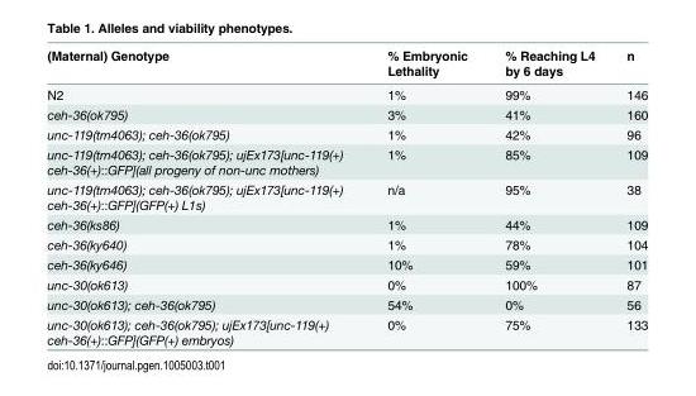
<table><thead><tr><td>(Maternal) Genotype</td><td>% Embryonic Lethality</td><td>% Reaching L4 by 6 days</td><td>n</td></tr></thead><tbody><tr><td>N2</td><td>1%</td><td>99%</td><td>146</td></tr><tr><td>ceh-36(ok795)</td><td>3%</td><td>41%</td><td>160</td></tr><tr><td>unc-119(tm4063); ceh-36(ok795)</td><td>1%</td><td>42%</td><td>96</td></tr><tr><td>unc-119(tm4063); ceh-36(ok795); ujEx173[unc-119(+) ceh-36(+)::GFP](all progeny of non-unc mothers)</td><td>1%</td><td>85%</td><td>109</td></tr><tr><td>unc-119(tm4063); ceh-36(ok795); ujEx173[unc-119(+) ceh-36(+)::GFP](GFP(+) L1s)</td><td>n/a</td><td>95%</td><td>38</td></tr><tr><td>ceh-36(ks86)</td><td>1%</td><td>44%</td><td>109</td></tr><tr><td>ceh-36(ky640)</td><td>1%</td><td>78%</td><td>104</td></tr><tr><td>ceh-36(ky646)</td><td>10%</td><td>59%</td><td>101</td></tr><tr><td>unc-30(ok613)</td><td>0%</td><td>100%</td><td>87</td></tr><tr><td>unc-30(ok613); ceh-36(ok795)</td><td>54%</td><td>0%</td><td>56</td></tr><tr><td>unc-30(ok613); ceh-36(ok795); ujEx173[unc-119(+) ceh-36(+)::GFP](GFP(+) embryos)</td><td>0%</td><td>75%</td><td>133</td></tr></tbody></table>